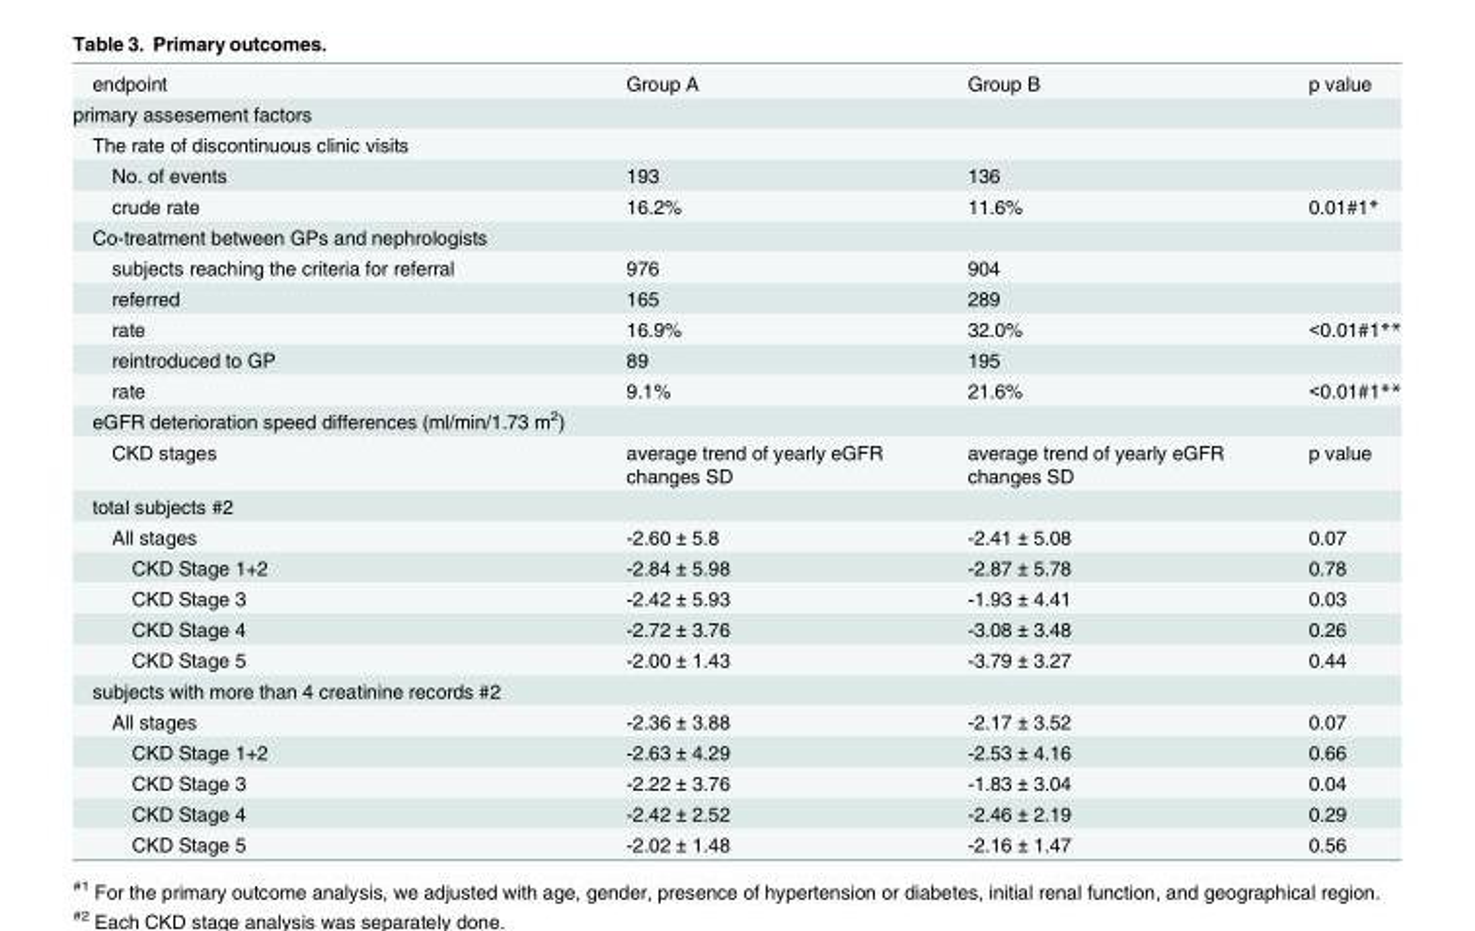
<table><tbody><tr><td>endpoint</td><td>Group A</td><td>Group B</td><td>p value</td></tr><tr><td colspan="4">primary assesement factors</td></tr><tr><td colspan="4">The rate of discontinuous clinic visits</td></tr><tr><td>No. of events</td><td>193</td><td>136</td><td></td></tr><tr><td>crude rate</td><td>16.2%</td><td>11.6%</td><td>0.01#1*</td></tr><tr><td colspan="4">Co-treatment between GPs and nephrologists</td></tr><tr><td>subjects reaching the criteria for referral</td><td>976</td><td>904</td><td></td></tr><tr><td>referred</td><td>165</td><td>289</td><td></td></tr><tr><td>rate</td><td>16.9%</td><td>32.0%</td><td>&lt;0.01#1**</td></tr><tr><td>reintroduced to GP</td><td>89</td><td>195</td><td></td></tr><tr><td>rate</td><td>9.1%</td><td>21.6%</td><td>&lt;0.01#1**</td></tr><tr><td colspan="4">eGFR deterioration speed differences (ml/min/1.73 m<sup>2</sup>)</td></tr><tr><td>CKD stages</td><td>average trend of yearly eGFR changes SD</td><td>average trend of yearly eGFR changes SD</td><td>p value</td></tr><tr><td colspan="4">total subjects #2</td></tr><tr><td>All stages</td><td>-2.60 ± 5.8</td><td>-2.41 ± 5.08</td><td>0.07</td></tr><tr><td>CKD Stage 1+2</td><td>-2.84 ± 5.98</td><td>-2.87 ± 5.78</td><td>0.78</td></tr><tr><td>CKD Stage 3</td><td>-2.42 ± 5.93</td><td>-1.93 ± 4.41</td><td>0.03</td></tr><tr><td>CKD Stage 4</td><td>-2.72 ± 3.76</td><td>-3.08 ± 3.48</td><td>0.26</td></tr><tr><td>CKD Stage 5</td><td>-2.00 ± 1.43</td><td>-3.79 ± 3.27</td><td>0.44</td></tr><tr><td colspan="4">subjects with more than 4 creatinine records #2</td></tr><tr><td>All stages</td><td>-2.36 ± 3.88</td><td>-2.17 ± 3.52</td><td>0.07</td></tr><tr><td>CKD Stage 1+2</td><td>-2.63 ± 4.29</td><td>-2.53 ± 4.16</td><td>0.66</td></tr><tr><td>CKD Stage 3</td><td>-2.22 ± 3.76</td><td>-1.83 ± 3.04</td><td>0.04</td></tr><tr><td>CKD Stage 4</td><td>-2.42 ± 2.52</td><td>-2.46 ± 2.19</td><td>0.29</td></tr><tr><td>CKD Stage 5</td><td>-2.02 ± 1.48</td><td>-2.16 ± 1.47</td><td>0.56</td></tr></tbody></table>